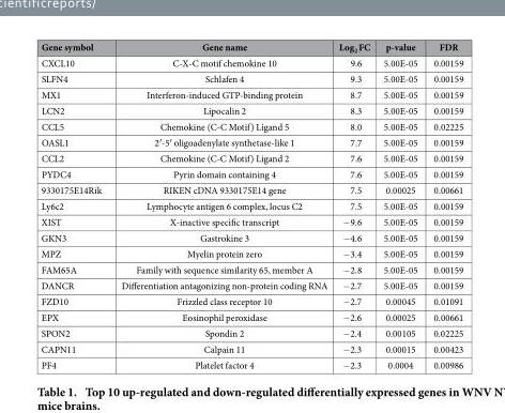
<table><thead><tr><td>Gene symbol</td><td>Gene name</td><td>Log<sub>2</sub> FC</td><td>p-value</td><td>FDR</td></tr></thead><tbody><tr><td>CXCL10</td><td>C-X-C motif chemokine 10</td><td>9.6</td><td>5.00E-05</td><td>0.00159</td></tr><tr><td>SLFN4</td><td>Schlafen 4</td><td>9.3</td><td>5.00E-05</td><td>0.00159</td></tr><tr><td>MX1</td><td>Interferon-induced GTP-binding protein</td><td>8.7</td><td>5.00E-05</td><td>0.00159</td></tr><tr><td>LCN2</td><td>Lipocalin 2</td><td>8.3</td><td>5.00E-05</td><td>0.00159</td></tr><tr><td>CCL5</td><td>Chemokine (C-C Motif) Ligand 5</td><td>8.0</td><td>5.00E-05</td><td>0.02225</td></tr><tr><td>OASL1</td><td>2′ -5′ oligoadenylate synthetase-like 1</td><td>7.7</td><td>5.00E-05</td><td>0.00159</td></tr><tr><td>CCL2</td><td>Chemokine (C-C Motif) Ligand 2</td><td>7.6</td><td>5.00E-05</td><td>0.00159</td></tr><tr><td>PYDC4</td><td>Pyrin domain containing 4</td><td>7.6</td><td>5.00E-05</td><td>0.00159</td></tr><tr><td>9330175E14Rik</td><td>RIKEN cDNA 9330175E14 gene</td><td>7.5</td><td>0.00025</td><td>0.00661</td></tr><tr><td>Ly6c2</td><td>Lymphocyte antigen 6 complex, locus C2</td><td>7.5</td><td>5.00E-05</td><td>0.00159</td></tr><tr><td>XIST</td><td>X-inactive specific transcript</td><td>− 9.6</td><td>5.00E-05</td><td>0.00159</td></tr><tr><td>GKN3</td><td>Gastrokine 3</td><td>− 4.6</td><td>5.00E-05</td><td>0.00159</td></tr><tr><td>MPZ</td><td>Myelin protein zero</td><td>− 3.4</td><td>5.00E-05</td><td>0.00159</td></tr><tr><td>FAM65A</td><td>Family with sequence similarity 65, member A</td><td>− 2.8</td><td>5.00E-05</td><td>0.00159</td></tr><tr><td>DANCR</td><td>Differentiation antagonizing non-protein coding RNA</td><td>− 2.7</td><td>5.00E-05</td><td>0.00159</td></tr><tr><td>FZD10</td><td>Frizzled class receptor 10</td><td>− 2.7</td><td>0.00045</td><td>0.01091</td></tr><tr><td>EPX</td><td>Eosinophil peroxidase</td><td>− 2.6</td><td>0.00025</td><td>0.00661</td></tr><tr><td>SPON2</td><td>Spondin 2</td><td>− 2.4</td><td>0.00105</td><td>0.02225</td></tr><tr><td>CAPN11</td><td>Calpain 11</td><td>− 2.3</td><td>0.00015</td><td>0.00423</td></tr><tr><td>PF4</td><td>Platelet factor 4</td><td>− 2.3</td><td>0.0004</td><td>0.00986</td></tr></tbody></table>